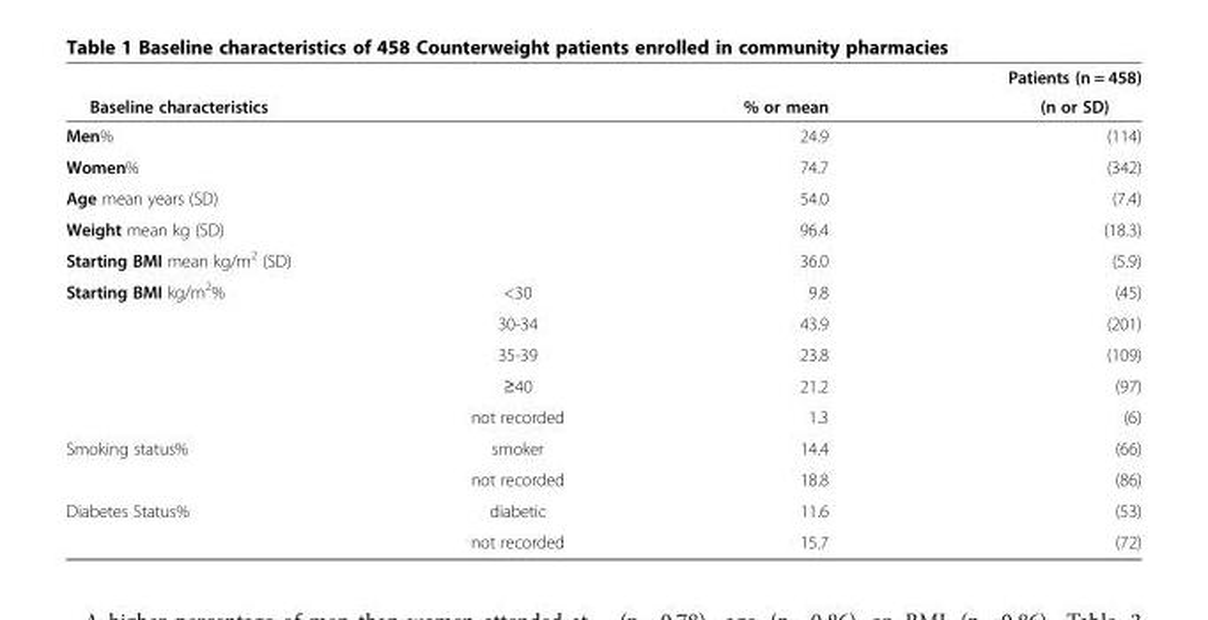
<table><thead><tr><td colspan="4">Patients (n = 458)</td></tr><tr><td>Baseline characteristics</td><td></td><td>% or mean</td><td>(n or SD)</td></tr></thead><tbody><tr><td>Men%</td><td></td><td>24.9</td><td>(114)</td></tr><tr><td>Women%</td><td></td><td>74.7</td><td>(342)</td></tr><tr><td>Age mean years (SD)</td><td></td><td>54.0</td><td>(7.4)</td></tr><tr><td>Weight mean kg (SD)</td><td></td><td>96.4</td><td>(18.3)</td></tr><tr><td>Starting BMI mean kg/m<sup>2</sup> (SD)</td><td></td><td>36.0</td><td>(5.9)</td></tr><tr><td rowspan="5">Starting BMI kg/m<sup>2</sup>%</td><td>&lt;30</td><td>9.8</td><td>(45)</td></tr><tr><td>30-34</td><td>43.9</td><td>(201)</td></tr><tr><td>35-39</td><td>23.8</td><td>(109)</td></tr><tr><td>≥40</td><td>21.2</td><td>(97)</td></tr><tr><td>not recorded</td><td>1.3</td><td>(6)</td></tr><tr><td rowspan="2">Smoking status%</td><td>smoker</td><td>14.4</td><td>(66)</td></tr><tr><td>not recorded</td><td>18.8</td><td>(86)</td></tr><tr><td rowspan="2">Diabetes Status%</td><td>diabetic</td><td>11.6</td><td>(53)</td></tr><tr><td>not recorded</td><td>15.7</td><td>(72)</td></tr></tbody></table>